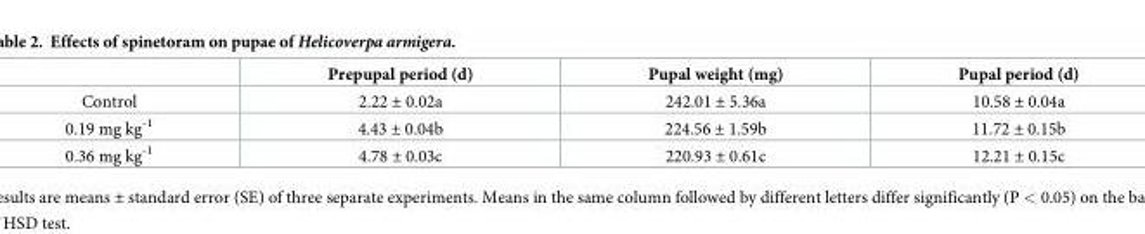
<table><thead><tr><td></td><td>Prepupal period (d)</td><td>Pupal weight (mg)</td><td>Pupal period (d)</td></tr></thead><tbody><tr><td>Control</td><td>2.22 ± 0.02a</td><td>242.01 ± 5.36a</td><td>10.58 ± 0.04a</td></tr><tr><td>0.19 mg kg<sup>-1</sup></td><td>4.43 ± 0.04b</td><td>224.56 ± 1.59b</td><td>11.72 ± 0.15b</td></tr><tr><td>0.36 mg kg<sup>-1</sup></td><td>4.78 ± 0.03c</td><td>220.93 ± 0.61c</td><td>12.21 ± 0.15c</td></tr></tbody></table>